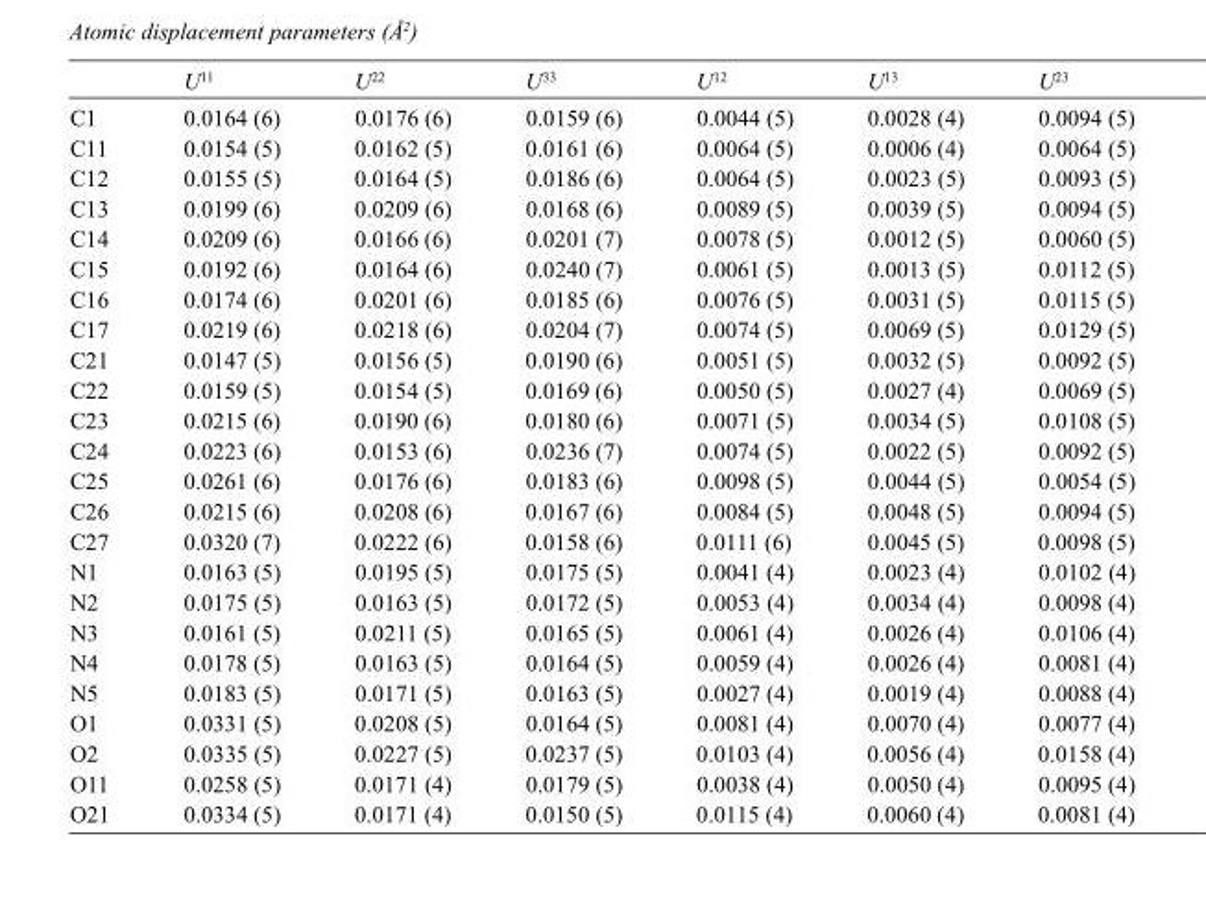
<table><thead><tr><td></td><td>U<sup>11</sup></td><td>U<sup>22</sup></td><td>U<sup>33</sup></td><td>U<sup>12</sup></td><td>U<sup>13</sup></td><td>U<sup>23</sup></td></tr></thead><tbody><tr><td>C1</td><td>0.0164 (6)</td><td>0.0176 (6)</td><td>0.0159 (6)</td><td>0.0044 (5)</td><td>0.0028 (4)</td><td>0.0094 (5)</td></tr><tr><td>C11</td><td>0.0154 (5)</td><td>0.0162 (5)</td><td>0.0161 (6)</td><td>0.0064 (5)</td><td>0.0006 (4)</td><td>0.0064 (5)</td></tr><tr><td>C12</td><td>0.0155 (5)</td><td>0.0164 (5)</td><td>0.0186 (6)</td><td>0.0064 (5)</td><td>0.0023 (5)</td><td>0.0093 (5)</td></tr><tr><td>C13</td><td>0.0199 (6)</td><td>0.0209 (6)</td><td>0.0168 (6)</td><td>0.0089 (5)</td><td>0.0039 (5)</td><td>0.0094 (5)</td></tr><tr><td>C14</td><td>0.0209 (6)</td><td>0.0166 (6)</td><td>0.0201 (7)</td><td>0.0078 (5)</td><td>0.0012 (5)</td><td>0.0060 (5)</td></tr><tr><td>C15</td><td>0.0192 (6)</td><td>0.0164 (6)</td><td>0.0240 (7)</td><td>0.0061 (5)</td><td>0.0013 (5)</td><td>0.0112 (5)</td></tr><tr><td>C16</td><td>0.0174 (6)</td><td>0.0201 (6)</td><td>0.0185 (6)</td><td>0.0076 (5)</td><td>0.0031 (5)</td><td>0.0115 (5)</td></tr><tr><td>C17</td><td>0.0219 (6)</td><td>0.0218 (6)</td><td>0.0204 (7)</td><td>0.0074 (5)</td><td>0.0069 (5)</td><td>0.0129 (5)</td></tr><tr><td>C21</td><td>0.0147 (5)</td><td>0.0156 (5)</td><td>0.0190 (6)</td><td>0.0051 (5)</td><td>0.0032 (5)</td><td>0.0092 (5)</td></tr><tr><td>C22</td><td>0.0159 (5)</td><td>0.0154 (5)</td><td>0.0169 (6)</td><td>0.0050 (5)</td><td>0.0027 (4)</td><td>0.0069 (5)</td></tr><tr><td>C23</td><td>0.0215 (6)</td><td>0.0190 (6)</td><td>0.0180 (6)</td><td>0.0071 (5)</td><td>0.0034 (5)</td><td>0.0108 (5)</td></tr><tr><td>C24</td><td>0.0223 (6)</td><td>0.0153 (6)</td><td>0.0236 (7)</td><td>0.0074 (5)</td><td>0.0022 (5)</td><td>0.0092 (5)</td></tr><tr><td>C25</td><td>0.0261 (6)</td><td>0.0176 (6)</td><td>0.0183 (6)</td><td>0.0098 (5)</td><td>0.0044 (5)</td><td>0.0054 (5)</td></tr><tr><td>C26</td><td>0.0215 (6)</td><td>0.0208 (6)</td><td>0.0167 (6)</td><td>0.0084 (5)</td><td>0.0048 (5)</td><td>0.0094 (5)</td></tr><tr><td>C27</td><td>0.0320 (7)</td><td>0.0222 (6)</td><td>0.0158 (6)</td><td>0.0111 (6)</td><td>0.0045 (5)</td><td>0.0098 (5)</td></tr><tr><td>N1</td><td>0.0163 (5)</td><td>0.0195 (5)</td><td>0.0175 (5)</td><td>0.0041 (4)</td><td>0.0023 (4)</td><td>0.0102 (4)</td></tr><tr><td>N2</td><td>0.0175 (5)</td><td>0.0163 (5)</td><td>0.0172 (5)</td><td>0.0053 (4)</td><td>0.0034 (4)</td><td>0.0098 (4)</td></tr><tr><td>N3</td><td>0.0161 (5)</td><td>0.0211 (5)</td><td>0.0165 (5)</td><td>0.0061 (4)</td><td>0.0026 (4)</td><td>0.0106 (4)</td></tr><tr><td>N4</td><td>0.0178 (5)</td><td>0.0163 (5)</td><td>0.0164 (5)</td><td>0.0059 (4)</td><td>0.0026 (4)</td><td>0.0081 (4)</td></tr><tr><td>N5</td><td>0.0183 (5)</td><td>0.0171 (5)</td><td>0.0163 (5)</td><td>0.0027 (4)</td><td>0.0019 (4)</td><td>0.0088 (4)</td></tr><tr><td>O1</td><td>0.0331 (5)</td><td>0.0208 (5)</td><td>0.0164 (5)</td><td>0.0081 (4)</td><td>0.0070 (4)</td><td>0.0077 (4)</td></tr><tr><td>O2</td><td>0.0335 (5)</td><td>0.0227 (5)</td><td>0.0237 (5)</td><td>0.0103 (4)</td><td>0.0056 (4)</td><td>0.0158 (4)</td></tr><tr><td>O11</td><td>0.0258 (5)</td><td>0.0171 (4)</td><td>0.0179 (5)</td><td>0.0038 (4)</td><td>0.0050 (4)</td><td>0.0095 (4)</td></tr><tr><td>O21</td><td>0.0334 (5)</td><td>0.0171 (4)</td><td>0.0150 (5)</td><td>0.0115 (4)</td><td>0.0060 (4)</td><td>0.0081 (4)</td></tr></tbody></table>